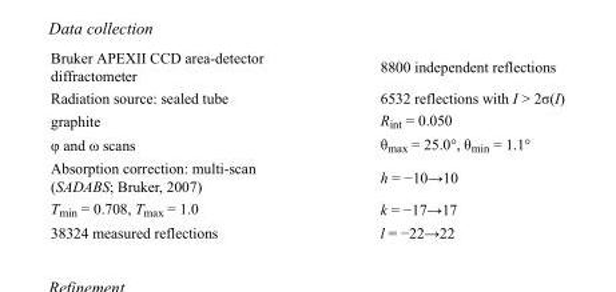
<table><tbody><tr><td>Bruker APEXII CCD area-detector diffractometer</td><td>8800 independent reflections</td></tr><tr><td>Radiation source: sealed tube</td><td>6532 reflections with I &gt; 2σ(I)</td></tr><tr><td>graphite</td><td>R<sub>int</sub> = 0.050</td></tr><tr><td>φ and ω scans</td><td>θ<sub>max</sub> = 25.0°, θ<sub>min</sub> = 1.1°</td></tr><tr><td>Absorption correction: multi-scan (SADABS; Bruker, 2007)</td><td>h = −10→10</td></tr><tr><td>T<sub>min</sub> = 0.708, T<sub>max</sub> = 1.0</td><td>k = −17→17</td></tr><tr><td>38324 measured reflections</td><td>l = −22→22</td></tr></tbody></table>